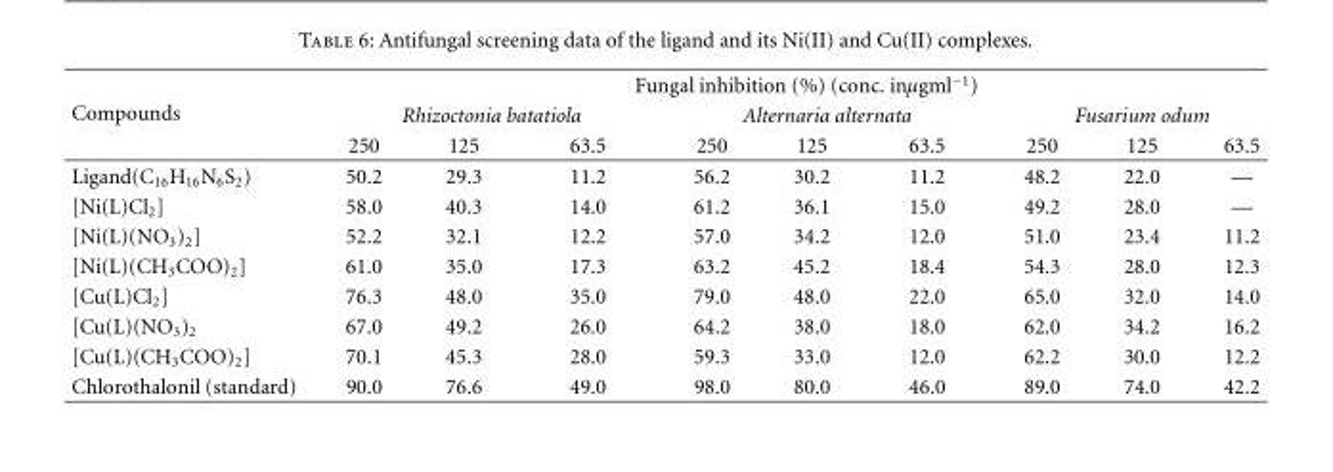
<table><thead><tr><td rowspan="3">Compounds</td><td colspan="9">Fungal inhibition (%) (conc. inμgml<sup>−1</sup>)</td></tr><tr><td colspan="3">Rhizoctonia batatiola</td><td colspan="3">Alternaria alternata</td><td colspan="3">Fusarium odum</td></tr><tr><td>250</td><td>125</td><td>63.5</td><td>250</td><td>125</td><td>63.5</td><td>250</td><td>125</td><td>63.5</td></tr></thead><tbody><tr><td>Ligand(C<sub>16</sub>H<sub>16</sub>N<sub>6</sub>S<sub>2</sub>)</td><td>50.2</td><td>29.3</td><td>11.2</td><td>56.2</td><td>30.2</td><td>11.2</td><td>48.2</td><td>22.0</td><td>—</td></tr><tr><td>[Ni(L)Cl<sub>2</sub>]</td><td>58.0</td><td>40.3</td><td>14.0</td><td>61.2</td><td>36.1</td><td>15.0</td><td>49.2</td><td>28.0</td><td>—</td></tr><tr><td>[Ni(L)(NO<sub>3</sub>)<sub>2</sub>]</td><td>52.2</td><td>32.1</td><td>12.2</td><td>57.0</td><td>34.2</td><td>12.0</td><td>51.0</td><td>23.4</td><td>11.2</td></tr><tr><td>[Ni(L)(CH<sub>3</sub>COO)<sub>2</sub>]</td><td>61.0</td><td>35.0</td><td>17.3</td><td>63.2</td><td>45.2</td><td>18.4</td><td>54.3</td><td>28.0</td><td>12.3</td></tr><tr><td>[Cu(L)Cl<sub>2</sub>]</td><td>76.3</td><td>48.0</td><td>35.0</td><td>79.0</td><td>48.0</td><td>22.0</td><td>65.0</td><td>32.0</td><td>14.0</td></tr><tr><td>[Cu(L)(NO3)2</td><td>67.0</td><td>49.2</td><td>26.0</td><td>64.2</td><td>38.0</td><td>18.0</td><td>62.0</td><td>34.2</td><td>16.2</td></tr><tr><td>[Cu(L)(CH<sub>3</sub>COO)<sub>2</sub>]</td><td>70.1</td><td>45.3</td><td>28.0</td><td>59.3</td><td>33.0</td><td>12.0</td><td>62.2</td><td>30.0</td><td>12.2</td></tr><tr><td>Chlorothalonil (standard)</td><td>90.0</td><td>76.6</td><td>49.0</td><td>98.0</td><td>80.0</td><td>46.0</td><td>89.0</td><td>74.0</td><td>42.2</td></tr></tbody></table>